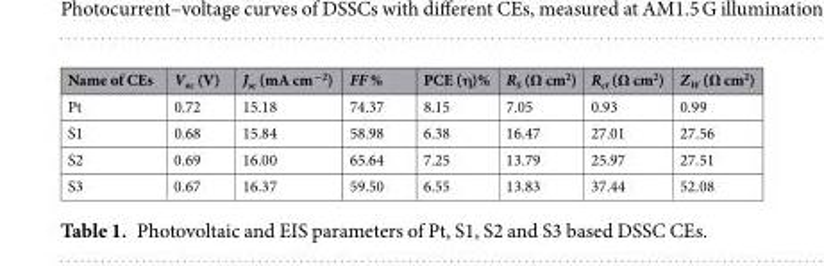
<table><thead><tr><td>Name of CEs</td><td>V<sub>oc</sub> (V)</td><td>J<sub>sc</sub> (mA cm<sup>−2</sup>)</td><td>FF %</td><td>PCE (η)%</td><td>R<sub>S</sub> (Ω cm<sup>2</sup>)</td><td>R<sub>ct</sub> (Ω cm<sup>2</sup>)</td><td>Z<sub>W</sub> (Ω cm<sup>2</sup>)</td></tr></thead><tbody><tr><td>Pt</td><td>0.72</td><td>15.18</td><td>74.37</td><td>8.15</td><td>7.05</td><td>0.93</td><td>0.99</td></tr><tr><td>S1</td><td>0.68</td><td>15.84</td><td>58.98</td><td>6.38</td><td>16.47</td><td>27.01</td><td>27.56</td></tr><tr><td>S2</td><td>0.69</td><td>16.00</td><td>65.64</td><td>7.25</td><td>13.79</td><td>25.97</td><td>27.51</td></tr><tr><td>S3</td><td>0.67</td><td>16.37</td><td>59.50</td><td>6.55</td><td>13.83</td><td>37.44</td><td>52.08</td></tr></tbody></table>